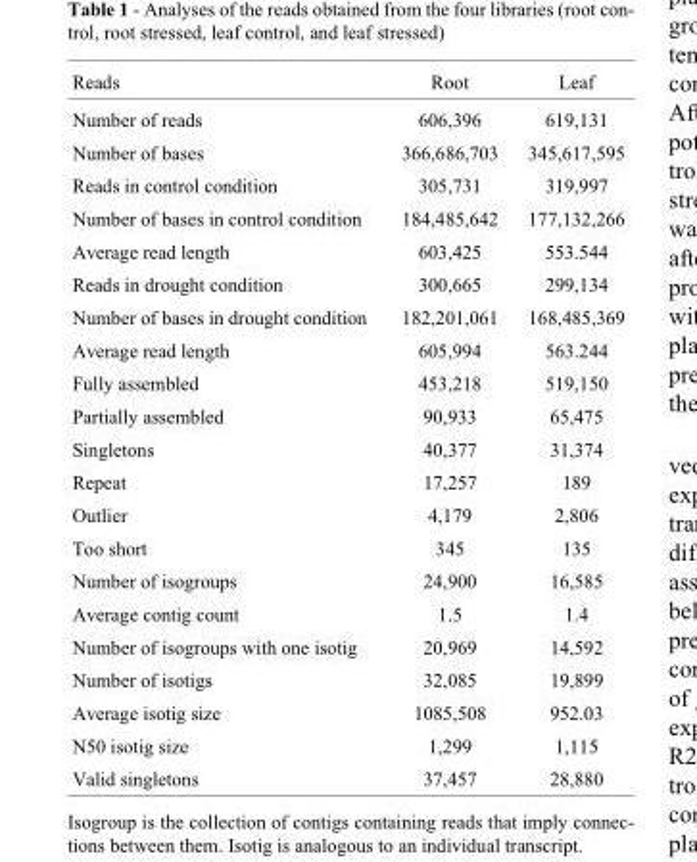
<table><thead><tr><td>Reads</td><td>Root</td><td>Leaf</td></tr></thead><tbody><tr><td>Number of reads</td><td>606,396</td><td>619,131</td></tr><tr><td>Number of bases</td><td>366,686,703</td><td>345,617,595</td></tr><tr><td>Reads in control condition</td><td>305,731</td><td>319,997</td></tr><tr><td>Number of bases in control condition</td><td>184,485,642</td><td>177,132,266</td></tr><tr><td>Average read length</td><td>603,425</td><td>553.544</td></tr><tr><td>Reads in drought condition</td><td>300,665</td><td>299,134</td></tr><tr><td>Number of bases in drought condition</td><td>182,201,061</td><td>168,485,369</td></tr><tr><td>Average read length</td><td>605,994</td><td>563.244</td></tr><tr><td>Fully assembled</td><td>453,218</td><td>519,150</td></tr><tr><td>Partially assembled</td><td>90,933</td><td>65,475</td></tr><tr><td>Singletons</td><td>40,377</td><td>31,374</td></tr><tr><td>Repeat</td><td>17,257</td><td>189</td></tr><tr><td>Outlier</td><td>4,179</td><td>2,806</td></tr><tr><td>Too short</td><td>345</td><td>135</td></tr><tr><td>Number of isogroups</td><td>24,900</td><td>16,585</td></tr><tr><td>Average contig count</td><td>1.5</td><td>1.4</td></tr><tr><td>Number of isogroups with one isotig</td><td>20,969</td><td>14,592</td></tr><tr><td>Number of isotigs</td><td>32,085</td><td>19,899</td></tr><tr><td>Average isotig size</td><td>1085,508</td><td>952.03</td></tr><tr><td>N50 isotig size</td><td>1,299</td><td>1,115</td></tr><tr><td>Valid singletons</td><td>37,457</td><td>28,880</td></tr></tbody></table>